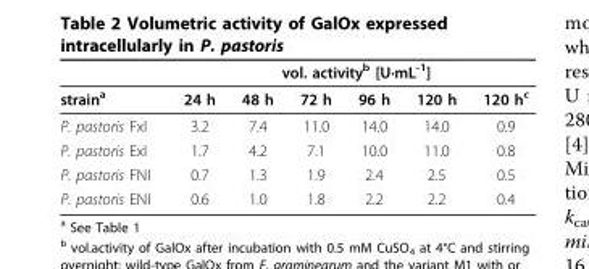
<table><thead><tr><td rowspan="2">strain<sup>a</sup></td><td colspan="6">vol. activity<sup>b</sup> [U·mL<sup>-1</sup>]</td></tr><tr><td>24 h</td><td>48 h</td><td>72 h</td><td>96 h</td><td>120 h</td><td>120 h<sup>c</sup></td></tr></thead><tbody><tr><td>P. pastoris FxI</td><td>3.2</td><td>7.4</td><td>11.0</td><td>14.0</td><td>14.0</td><td>0.9</td></tr><tr><td>P. pastoris ExI</td><td>1.7</td><td>4.2</td><td>7.1</td><td>10.0</td><td>11.0</td><td>0.8</td></tr><tr><td>P. pastoris FNI</td><td>0.7</td><td>1.3</td><td>1.9</td><td>2.4</td><td>2.5</td><td>0.5</td></tr><tr><td>P. pastoris ENI</td><td>0.6</td><td>1.0</td><td>1.8</td><td>2.2</td><td>2.2</td><td>0.4</td></tr></tbody></table>